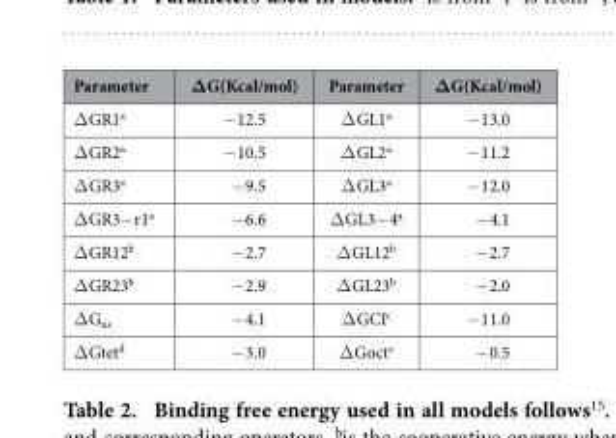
<table><thead><tr><td>Parameter</td><td>ΔG(Kcal/mol)</td><td>Parameter</td><td>ΔG(Kcal/mol)</td></tr></thead><tbody><tr><td>Δ GR1<sup>a</sup></td><td>− 12.5</td><td>Δ GL1<sup>a</sup></td><td>− 13.0</td></tr><tr><td>Δ GR2<sup>a</sup></td><td>− 10.5</td><td>Δ GL2<sup>a</sup></td><td>− 11.2</td></tr><tr><td>Δ GR3<sup>a</sup></td><td>− 9.5</td><td>Δ GL3<sup>a</sup></td><td>− 12.0</td></tr><tr><td>Δ GR3− r1<sup>a</sup></td><td>− 6.6</td><td>Δ GL3− 4<sup>a</sup></td><td>− 4.1</td></tr><tr><td>Δ GR12<sup>b</sup></td><td>− 2.7</td><td>Δ GL12<sup>b</sup></td><td>− 2.7</td></tr><tr><td>Δ GR23<sup>b</sup></td><td>− 2.9</td><td>Δ GL23<sup>b</sup></td><td>− 2.0</td></tr><tr><td>Δ G<sub>ns</sub></td><td>− 4.1</td><td>Δ GCI<sup>c</sup></td><td>− 11.0</td></tr><tr><td>Δ Gtet<sup>d</sup></td><td>− 3.0</td><td>Δ Goct<sup>e</sup></td><td>− 0.5</td></tr></tbody></table>